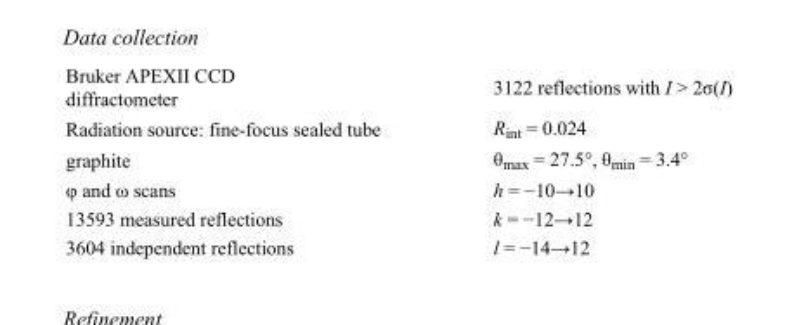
<table><tbody><tr><td>Bruker APEXII CCD diffractometer</td><td>3122 reflections with I &gt; 2σ(I)</td></tr><tr><td>Radiation source: fine-focus sealed tube</td><td>R<sub>int</sub> = 0.024</td></tr><tr><td>graphite</td><td>θ<sub>max</sub> = 27.5°, θ<sub>min</sub> = 3.4°</td></tr><tr><td>φ and ω scans</td><td>h = −10→10</td></tr><tr><td>13593 measured reflections</td><td>k = −12→12</td></tr><tr><td>3604 independent reflections</td><td>l = −14→12</td></tr></tbody></table>